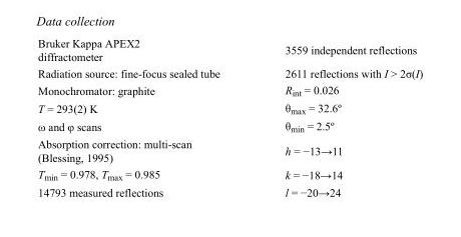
<table><tbody><tr><td>Bruker Kappa APEX2 diffractometer</td><td>3559 independent reflections</td></tr><tr><td>Radiation source: fine-focus sealed tube</td><td>2611 reflections with I &gt; 2σ(I)</td></tr><tr><td>Monochromator: graphite</td><td>R<sub>int</sub> = 0.026</td></tr><tr><td>T = 293(2) K</td><td>θ<sub>max</sub> = 32.6º</td></tr><tr><td>ω and φ scans</td><td>θ<sub>min</sub> = 2.5º</td></tr><tr><td>Absorption correction: multi-scan (Blessing, 1995)</td><td>h = −13→11</td></tr><tr><td>T<sub>min</sub> = 0.978, T<sub>max</sub> = 0.985</td><td>k = −18→14</td></tr><tr><td>14793 measured reflections</td><td>l = −20→24</td></tr></tbody></table>